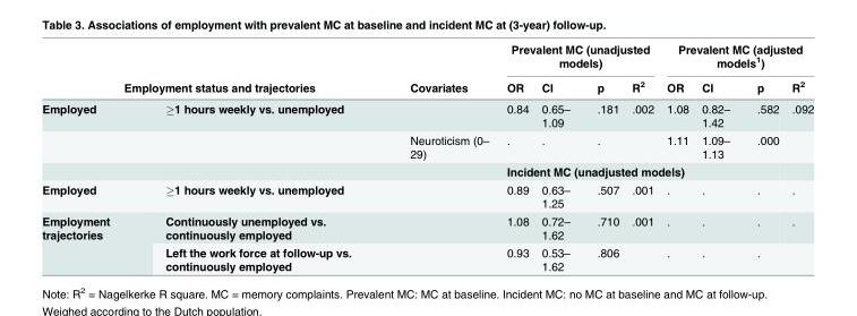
<table><thead><tr><td></td><td></td><td rowspan="2">Covariates</td><td colspan="4">Prevalent MC (unadjusted models)</td><td colspan="4">Prevalent MC (adjusted models<sup>1</sup>)</td></tr><tr><td colspan="2">Employment status and trajectories</td><td>OR</td><td>CI</td><td>p</td><td>R<sup>2</sup></td><td>OR</td><td>CI</td><td>p</td><td>R<sup>2</sup></td></tr></thead><tbody><tr><td rowspan="3">Employed</td><td>≥1 hours weekly vs. unemployed</td><td></td><td>0.84</td><td>0.65– 1.09</td><td>.181</td><td>.002</td><td>1.08</td><td>0.82– 1.42</td><td>.582</td><td>.092</td></tr><tr><td></td><td>Neuroticism (0– 29)</td><td>.</td><td>.</td><td>.</td><td></td><td>1.11</td><td>1.09– 1.13</td><td>.000</td><td></td></tr><tr><td></td><td></td><td colspan="6">Incident MC (unadjusted models)</td><td></td><td></td></tr><tr><td>Employed</td><td>≥1 hours weekly vs. unemployed</td><td></td><td>0.89</td><td>0.63– 1.25</td><td>.507</td><td>.001</td><td>.</td><td>.</td><td>.</td><td>.</td></tr><tr><td rowspan="2">Employment trajectories</td><td>Continuously unemployed vs. continuously employed</td><td></td><td>1.08</td><td>0.72– 1.62</td><td>.710</td><td>.001</td><td>.</td><td>.</td><td>.</td><td>.</td></tr><tr><td>Left the work force at follow-up vs. continuously employed</td><td></td><td>0.93</td><td>0.53– 1.62</td><td>.806</td><td></td><td>.</td><td>.</td><td>.</td><td></td></tr></tbody></table>